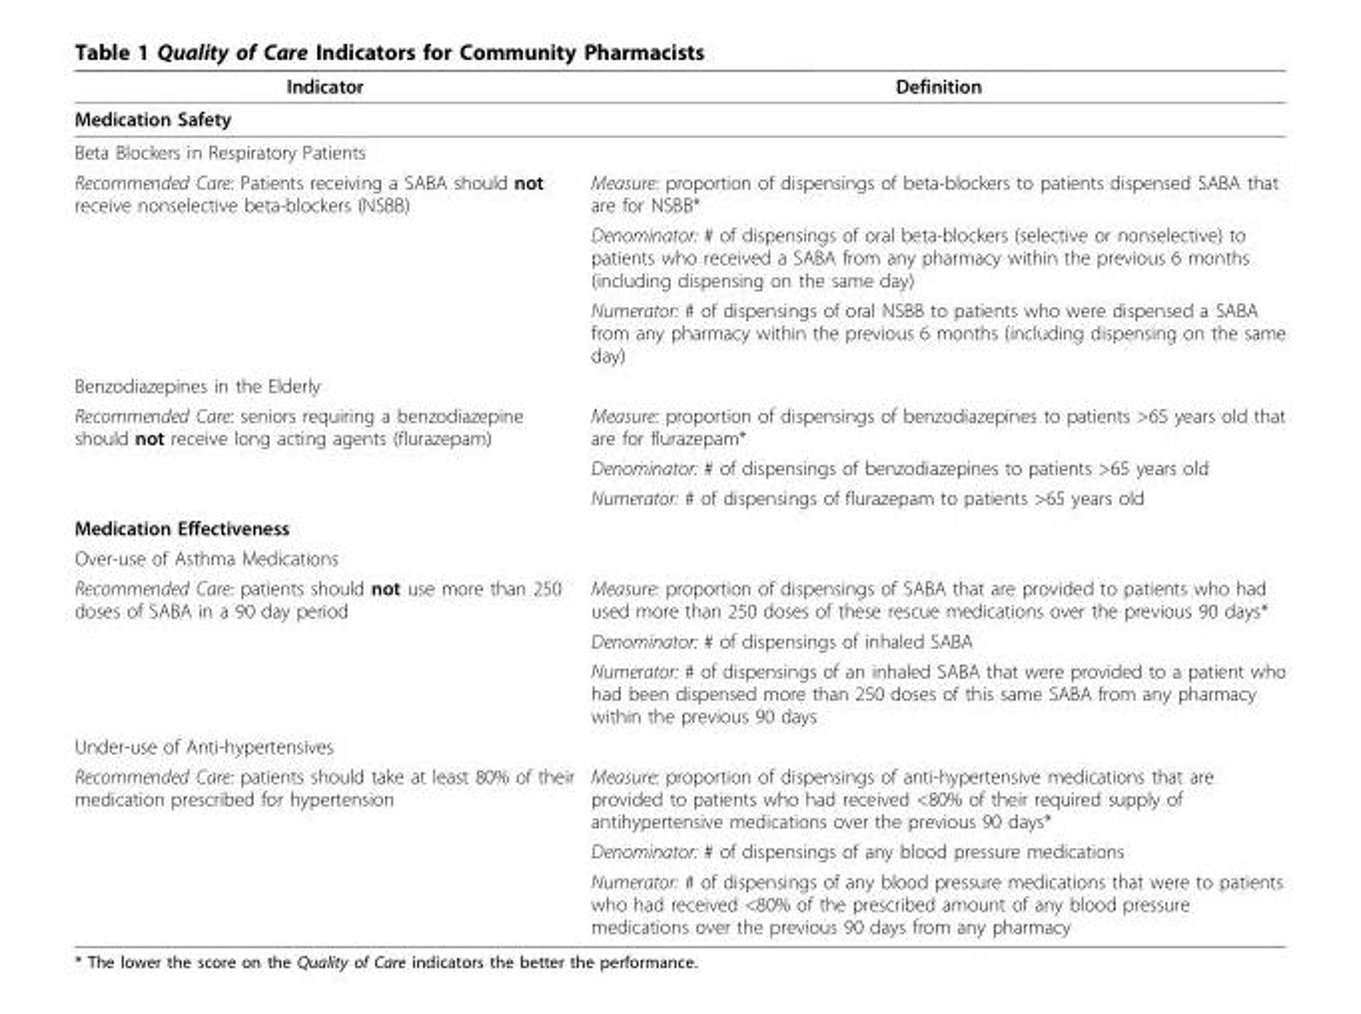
<table><thead><tr><td>Indicator</td><td>Definition</td></tr></thead><tbody><tr><td colspan="2">Medication Safety</td></tr><tr><td colspan="2">Beta Blockers in Respiratory Patients</td></tr><tr><td rowspan="3">Recommended Care: Patients receiving a SABA should not receive nonselective beta-blockers (NSBB)</td><td>Measure: proportion of dispensings of beta-blockers to patients dispensed SABA that are for NSBB*</td></tr><tr><td>Denominator: # of dispensings of oral beta-blockers (selective or nonselective) to patients who received a SABA from any pharmacy within the previous 6 months (including dispensing on the same day)</td></tr><tr><td>Numerator: # of dispensings of oral NSBB to patients who were dispensed a SABA from any pharmacy within the previous 6 months (including dispensing on the same day)</td></tr><tr><td colspan="2">Benzodiazepines in the Elderly</td></tr><tr><td rowspan="3">Recommended Care: seniors requiring a benzodiazepine should not receive long acting agents (flurazepam)</td><td>Measure: proportion of dispensings of benzodiazepines to patients &gt;65 years old that are for flurazepam*</td></tr><tr><td>Denominator: # of dispensings of benzodiazepines to patients &gt;65 years old</td></tr><tr><td>Numerator: # of dispensings of flurazepam to patients &gt;65 years old</td></tr><tr><td colspan="2">Medication Effectiveness</td></tr><tr><td colspan="2">Over-use of Asthma Medications</td></tr><tr><td rowspan="3">Recommended Care: patients should not use more than 250 doses of SABA in a 90 day period</td><td>Measure: proportion of dispensings of SABA that are provided to patients who had used more than 250 doses of these rescue medications over the previous 90 days*</td></tr><tr><td>Denominator: # of dispensings of inhaled SABA</td></tr><tr><td>Numerator: # of dispensings of an inhaled SABA that were provided to a patient who had been dispensed more than 250 doses of this same SABA from any pharmacy within the previous 90 days</td></tr><tr><td colspan="2">Under-use of Anti-hypertensives</td></tr><tr><td rowspan="3">Recommended Care: patients should take at least 80% of their medication prescribed for hypertension</td><td>Measure: proportion of dispensings of anti-hypertensive medications that are provided to patients who had received &lt;80% of their required supply of antihypertensive medications over the previous 90 days*</td></tr><tr><td>Denominator: # of dispensings of any blood pressure medications</td></tr><tr><td>Numerator: # of dispensings of any blood pressure medications that were to patients who had received &lt;80% of the prescribed amount of any blood pressure medications over the previous 90 days from any pharmacy</td></tr></tbody></table>